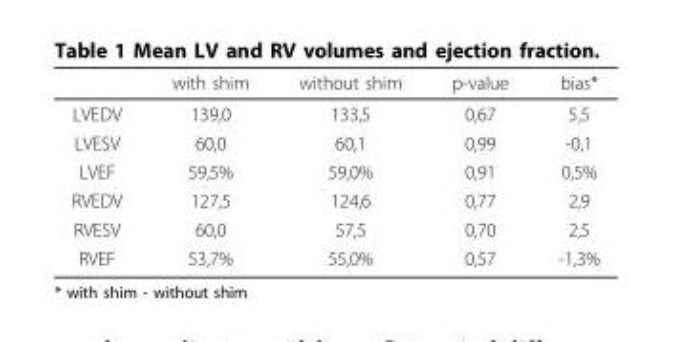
<table><thead><tr><td></td><td>with shim</td><td>without shim</td><td>p-value</td><td>bias*</td></tr></thead><tbody><tr><td>LVEDV</td><td>139,0</td><td>133,5</td><td>0,67</td><td>5,5</td></tr><tr><td>LVESV</td><td>60,0</td><td>60,1</td><td>0,99</td><td>-0,1</td></tr><tr><td>LVEF</td><td>59,5%</td><td>59,0%</td><td>0,91</td><td>0,5%</td></tr><tr><td>RVEDV</td><td>127,5</td><td>124,6</td><td>0,77</td><td>2,9</td></tr><tr><td>RVESV</td><td>60,0</td><td>57,5</td><td>0,70</td><td>2,5</td></tr><tr><td>RVEF</td><td>53,7%</td><td>55,0%</td><td>0,57</td><td>-1,3%</td></tr></tbody></table>